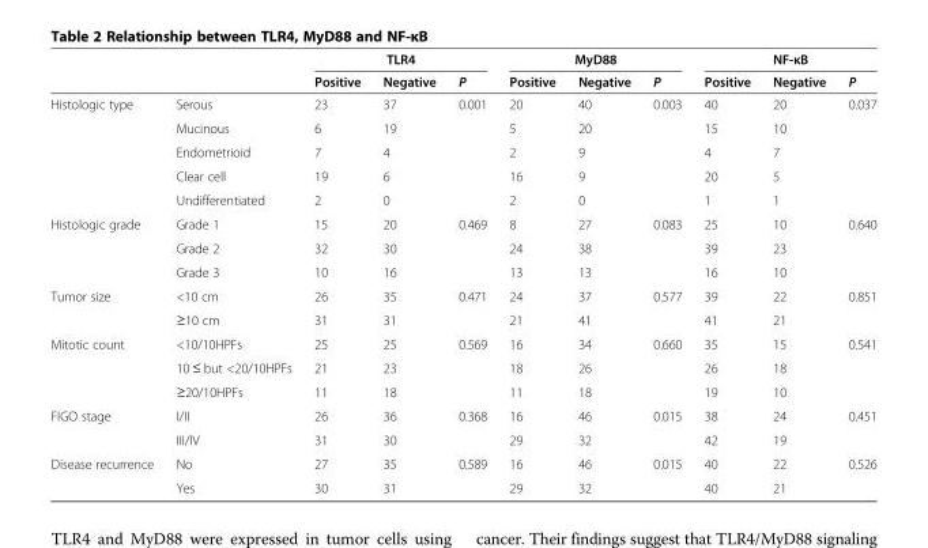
<table><thead><tr><td rowspan="2"></td><td rowspan="2"></td><td colspan="3">TLR4</td><td colspan="3">MyD88</td><td colspan="3">NF-κB</td></tr><tr><td>Positive</td><td>Negative</td><td>P</td><td>Positive</td><td>Negative</td><td>P</td><td>Positive</td><td>Negative</td><td>P</td></tr></thead><tbody><tr><td rowspan="5">Histologic type</td><td>Serous</td><td>23</td><td>37</td><td rowspan="5">0.001</td><td>20</td><td>40</td><td rowspan="5">0.003</td><td>40</td><td>20</td><td rowspan="5">0.037</td></tr><tr><td>Mucinous</td><td>6</td><td>19</td><td>5</td><td>20</td><td>15</td><td>10</td></tr><tr><td>Endometrioid</td><td>7</td><td>4</td><td>2</td><td>9</td><td>4</td><td>7</td></tr><tr><td>Clear cell</td><td>19</td><td>6</td><td>16</td><td>9</td><td>20</td><td>5</td></tr><tr><td>Undifferentiated</td><td>2</td><td>0</td><td>2</td><td>0</td><td>1</td><td>1</td></tr><tr><td rowspan="3">Histologic grade</td><td>Grade 1</td><td>15</td><td>20</td><td rowspan="3">0.469</td><td>8</td><td>27</td><td rowspan="3">0.083</td><td>25</td><td>10</td><td rowspan="3">0.640</td></tr><tr><td>Grade 2</td><td>32</td><td>30</td><td>24</td><td>38</td><td>39</td><td>23</td></tr><tr><td>Grade 3</td><td>10</td><td>16</td><td>13</td><td>13</td><td>16</td><td>10</td></tr><tr><td rowspan="2">Tumor size</td><td>&lt;10 cm</td><td>26</td><td>35</td><td rowspan="2">0.471</td><td>24</td><td>37</td><td rowspan="2">0.577</td><td>39</td><td>22</td><td rowspan="2">0.851</td></tr><tr><td>≥10 cm</td><td>31</td><td>31</td><td>21</td><td>41</td><td>41</td><td>21</td></tr><tr><td rowspan="3">Mitotic count</td><td>&lt;10/10HPFs</td><td>25</td><td>25</td><td rowspan="3">0.569</td><td>16</td><td>34</td><td rowspan="3">0.660</td><td>35</td><td>15</td><td rowspan="3">0.541</td></tr><tr><td>10 ≤ but &lt;20/10HPFs</td><td>21</td><td>23</td><td>18</td><td>26</td><td>26</td><td>18</td></tr><tr><td>≥20/10HPFs</td><td>11</td><td>18</td><td>11</td><td>18</td><td>19</td><td>10</td></tr><tr><td rowspan="2">FIGO stage</td><td>I/II</td><td>26</td><td>36</td><td rowspan="2">0.368</td><td>16</td><td>46</td><td rowspan="2">0.015</td><td>38</td><td>24</td><td rowspan="2">0.451</td></tr><tr><td>III/IV</td><td>31</td><td>30</td><td>29</td><td>32</td><td>42</td><td>19</td></tr><tr><td rowspan="2">Disease recurrence</td><td>No</td><td>27</td><td>35</td><td rowspan="2">0.589</td><td>16</td><td>46</td><td rowspan="2">0.015</td><td>40</td><td>22</td><td rowspan="2">0.526</td></tr><tr><td>Yes</td><td>30</td><td>31</td><td>29</td><td>32</td><td>40</td><td>21</td></tr></tbody></table>